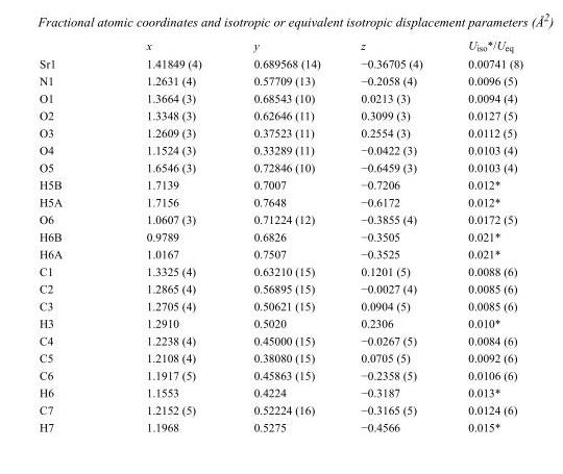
<table><thead><tr><td></td><td>x</td><td>y</td><td>z</td><td>U<sub>iso</sub>*/U<sub>eq</sub></td></tr></thead><tbody><tr><td>Sr1</td><td>1.41849 (4)</td><td>0.689568 (14)</td><td>−0.36705 (4)</td><td>0.00741 (8)</td></tr><tr><td>N1</td><td>1.2631 (4)</td><td>0.57709 (13)</td><td>−0.2058 (4)</td><td>0.0096 (5)</td></tr><tr><td>O1</td><td>1.3664 (3)</td><td>0.68543 (10)</td><td>0.0213 (3)</td><td>0.0094 (4)</td></tr><tr><td>O2</td><td>1.3348 (3)</td><td>0.62646 (11)</td><td>0.3099 (3)</td><td>0.0127 (5)</td></tr><tr><td>O3</td><td>1.2609 (3)</td><td>0.37523 (11)</td><td>0.2554 (3)</td><td>0.0112 (5)</td></tr><tr><td>O4</td><td>1.1524 (3)</td><td>0.33289 (11)</td><td>−0.0422 (3)</td><td>0.0103 (4)</td></tr><tr><td>O5</td><td>1.6546 (3)</td><td>0.72846 (10)</td><td>−0.6459 (3)</td><td>0.0103 (4)</td></tr><tr><td>H5B</td><td>1.7139</td><td>0.7007</td><td>−0.7206</td><td>0.012*</td></tr><tr><td>H5A</td><td>1.7156</td><td>0.7648</td><td>−0.6172</td><td>0.012*</td></tr><tr><td>O6</td><td>1.0607 (3)</td><td>0.71224 (12)</td><td>−0.3855 (4)</td><td>0.0172 (5)</td></tr><tr><td>H6B</td><td>0.9789</td><td>0.6826</td><td>−0.3505</td><td>0.021*</td></tr><tr><td>H6A</td><td>1.0167</td><td>0.7507</td><td>−0.3525</td><td>0.021*</td></tr><tr><td>C1</td><td>1.3325 (4)</td><td>0.63210 (15)</td><td>0.1201 (5)</td><td>0.0088 (6)</td></tr><tr><td>C2</td><td>1.2865 (4)</td><td>0.56895 (15)</td><td>−0.0027 (4)</td><td>0.0085 (6)</td></tr><tr><td>C3</td><td>1.2705 (4)</td><td>0.50621 (15)</td><td>0.0904 (5)</td><td>0.0085 (6)</td></tr><tr><td>H3</td><td>1.2910</td><td>0.5020</td><td>0.2306</td><td>0.010*</td></tr><tr><td>C4</td><td>1.2238 (4)</td><td>0.45000 (15)</td><td>−0.0267 (5)</td><td>0.0084 (6)</td></tr><tr><td>C5</td><td>1.2108 (4)</td><td>0.38080 (15)</td><td>0.0705 (5)</td><td>0.0092 (6)</td></tr><tr><td>C6</td><td>1.1917 (5)</td><td>0.45863 (15)</td><td>−0.2358 (5)</td><td>0.0106 (6)</td></tr><tr><td>H6</td><td>1.1553</td><td>0.4224</td><td>−0.3187</td><td>0.013*</td></tr><tr><td>C7</td><td>1.2152 (5)</td><td>0.52224 (16)</td><td>−0.3165 (5)</td><td>0.0124 (6)</td></tr><tr><td>H7</td><td>1.1968</td><td>0.5275</td><td>−0.4566</td><td>0.015*</td></tr></tbody></table>